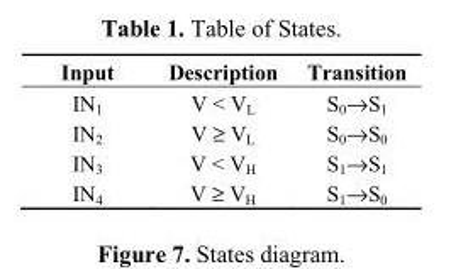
<table><thead><tr><td>Input</td><td>Description</td><td>Transition</td></tr></thead><tbody><tr><td>IN<sub>1</sub></td><td>V &lt; V<sub>L</sub></td><td>S<sub>0</sub>→S<sub>1</sub></td></tr><tr><td>IN<sub>2</sub></td><td>V ≥ V<sub>L</sub></td><td>S<sub>0</sub>→S<sub>0</sub></td></tr><tr><td>IN<sub>3</sub></td><td>V &lt; V<sub>H</sub></td><td>S<sub>1</sub>→S<sub>1</sub></td></tr><tr><td>IN<sub>4</sub></td><td>V ≥ V<sub>H</sub></td><td>S<sub>1</sub>→S<sub>0</sub></td></tr></tbody></table>